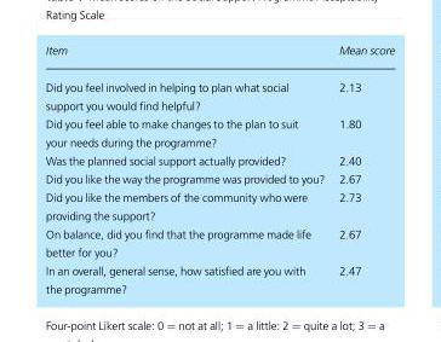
<table><thead><tr><td>Item</td><td>Mean score</td></tr></thead><tbody><tr><td>Did you feel involved in helping to plan what social support you would find helpful?</td><td>2.13</td></tr><tr><td>Did you feel able to make changes to the plan to suit your needs during the programme?</td><td>1.80</td></tr><tr><td>Was the planned social support actually provided?</td><td>2.40</td></tr><tr><td>Did you like the way the programme was provided to you?</td><td>2.67</td></tr><tr><td>Did you like the members of the community who were providing the support?</td><td>2.73</td></tr><tr><td>On balance, did you find that the programme made life better for you?</td><td>2.67</td></tr><tr><td>In an overall, general sense, how satisfied are you with the programme?</td><td>2.47</td></tr></tbody></table>